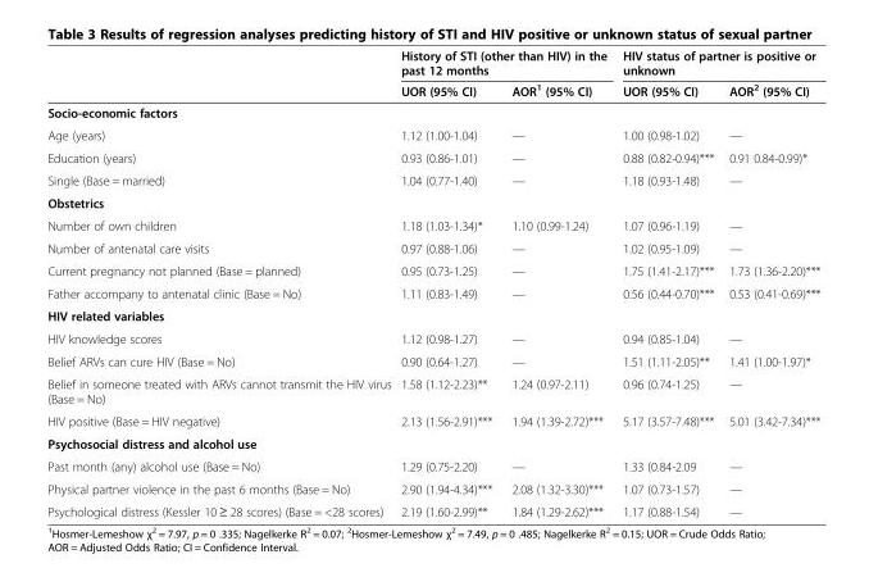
<table><thead><tr><td rowspan="2"></td><td colspan="2">History of STI (other than HIV) in the past 12 months</td><td colspan="2">HIV status of partner is positive or unknown</td></tr><tr><td>UOR (95% CI)</td><td>AOR<sup>1</sup> (95% CI)</td><td>UOR (95% CI)</td><td>AOR<sup>2</sup> (95% CI)</td></tr></thead><tbody><tr><td colspan="5">Socio-economic factors</td></tr><tr><td>Age (years)</td><td>1.12 (1.00-1.04)</td><td>—</td><td>1.00 (0.98-1.02)</td><td>—</td></tr><tr><td>Education (years)</td><td>0.93 (0.86-1.01)</td><td>—</td><td>0.88 (0.82-0.94)***</td><td>0.91 0.84-0.99)*</td></tr><tr><td>Single (Base = married)</td><td>1.04 (0.77-1.40)</td><td>—</td><td>1.18 (0.93-1.48)</td><td>—</td></tr><tr><td colspan="5">Obstetrics</td></tr><tr><td>Number of own children</td><td>1.18 (1.03-1.34)*</td><td>1.10 (0.99-1.24)</td><td>1.07 (0.96-1.19)</td><td>—</td></tr><tr><td>Number of antenatal care visits</td><td>0.97 (0.88-1.06)</td><td>—</td><td>1.02 (0.95-1.09)</td><td>—</td></tr><tr><td>Current pregnancy not planned (Base = planned)</td><td>0.95 (0.73-1.25)</td><td>—</td><td>1.75 (1.41-2.17)***</td><td>1.73 (1.36-2.20)***</td></tr><tr><td>Father accompany to antenatal clinic (Base = No)</td><td>1.11 (0.83-1.49)</td><td>—</td><td>0.56 (0.44-0.70)***</td><td>0.53 (0.41-0.69)***</td></tr><tr><td colspan="5">HIV related variables</td></tr><tr><td>HIV knowledge scores</td><td>1.12 (0.98-1.27)</td><td>—</td><td>0.94 (0.85-1.04)</td><td>—</td></tr><tr><td>Belief ARVs can cure HIV (Base = No)</td><td>0.90 (0.64-1.27)</td><td>—</td><td>1.51 (1.11-2.05)**</td><td>1.41 (1.00-1.97)*</td></tr><tr><td>Belief in someone treated with ARVs cannot transmit the HIV virus (Base = No)</td><td>1.58 (1.12-2.23)**</td><td>1.24 (0.97-2.11)</td><td>0.96 (0.74-1.25)</td><td>—</td></tr><tr><td>HIV positive (Base = HIV negative)</td><td>2.13 (1.56-2.91)***</td><td>1.94 (1.39-2.72)***</td><td>5.17 (3.57-7.48)***</td><td>5.01 (3.42-7.34)***</td></tr><tr><td colspan="5">Psychosocial distress and alcohol use</td></tr><tr><td>Past month (any) alcohol use (Base = No)</td><td>1.29 (0.75-2.20)</td><td>—</td><td>1.33 (0.84-2.09</td><td>—</td></tr><tr><td>Physical partner violence in the past 6 months (Base = No)</td><td>2.90 (1.94-4.34)***</td><td>2.08 (1.32-3.30)***</td><td>1.07 (0.73-1.57)</td><td>—</td></tr><tr><td>Psychological distress (Kessler 10 ≥ 28 scores) (Base = &lt;28 scores)</td><td>2.19 (1.60-2.99)**</td><td>1.84 (1.29-2.62)***</td><td>1.17 (0.88-1.54)</td><td>—</td></tr></tbody></table>